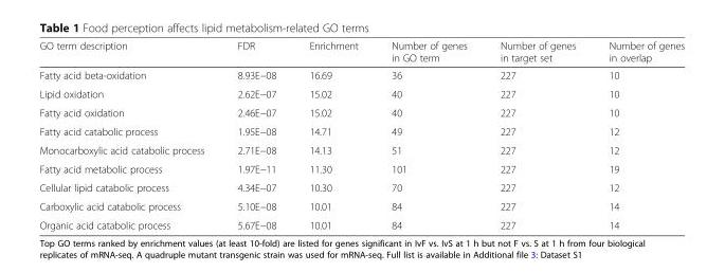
<table><thead><tr><td>GO term description</td><td>FDR</td><td>Enrichment</td><td>Number of genes in GO term</td><td>Number of genes in target set</td><td>Number of genes in overlap</td></tr></thead><tbody><tr><td>Fatty acid beta-oxidation</td><td>8.93E−08</td><td>16.69</td><td>36</td><td>227</td><td>10</td></tr><tr><td>Lipid oxidation</td><td>2.62E−07</td><td>15.02</td><td>40</td><td>227</td><td>10</td></tr><tr><td>Fatty acid oxidation</td><td>2.46E−07</td><td>15.02</td><td>40</td><td>227</td><td>10</td></tr><tr><td>Fatty acid catabolic process</td><td>1.95E−08</td><td>14.71</td><td>49</td><td>227</td><td>12</td></tr><tr><td>Monocarboxylic acid catabolic process</td><td>2.71E−08</td><td>14.13</td><td>51</td><td>227</td><td>12</td></tr><tr><td>Fatty acid metabolic process</td><td>1.97E−11</td><td>11.30</td><td>101</td><td>227</td><td>19</td></tr><tr><td>Cellular lipid catabolic process</td><td>4.34E−07</td><td>10.30</td><td>70</td><td>227</td><td>12</td></tr><tr><td>Carboxylic acid catabolic process</td><td>5.10E−08</td><td>10.01</td><td>84</td><td>227</td><td>14</td></tr><tr><td>Organic acid catabolic process</td><td>5.67E−08</td><td>10.01</td><td>84</td><td>227</td><td>14</td></tr></tbody></table>